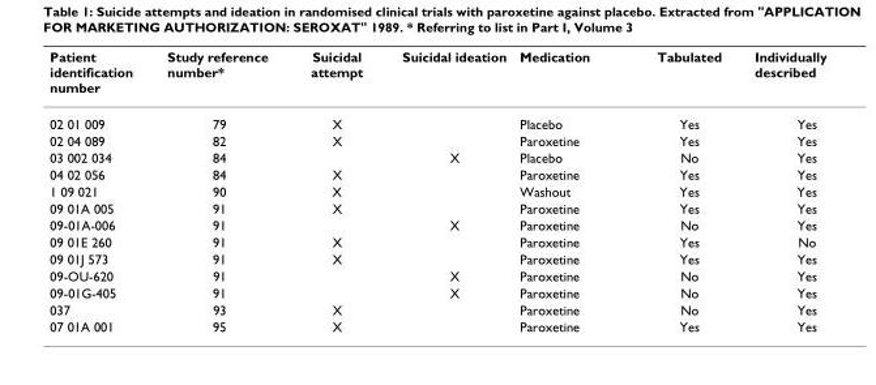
<table><thead><tr><td>Patient identification number</td><td>Study reference number*</td><td>Suicidal attempt</td><td>Suicidal ideation</td><td>Medication</td><td>Tabulated</td><td>Individually described</td></tr></thead><tbody><tr><td>02 01 009</td><td>79</td><td>X</td><td></td><td>Placebo</td><td>Yes</td><td>Yes</td></tr><tr><td>02 04 089</td><td>82</td><td>X</td><td></td><td>Paroxetine</td><td>Yes</td><td>Yes</td></tr><tr><td>03 002 034</td><td>84</td><td></td><td>X</td><td>Placebo</td><td>No</td><td>Yes</td></tr><tr><td>04 02 056</td><td>84</td><td>X</td><td></td><td>Paroxetine</td><td>Yes</td><td>Yes</td></tr><tr><td>1 09 021</td><td>90</td><td>X</td><td></td><td>Washout</td><td>Yes</td><td>Yes</td></tr><tr><td>09 01A 005</td><td>91</td><td>X</td><td></td><td>Paroxetine</td><td>Yes</td><td>Yes</td></tr><tr><td>09-01A-006</td><td>91</td><td></td><td>X</td><td>Paroxetine</td><td>No</td><td>Yes</td></tr><tr><td>09 01E 260</td><td>91</td><td>X</td><td></td><td>Paroxetine</td><td>Yes</td><td>No</td></tr><tr><td>09 01J 573</td><td>91</td><td>X</td><td></td><td>Paroxetine</td><td>Yes</td><td>Yes</td></tr><tr><td>09-OU-620</td><td>91</td><td></td><td>X</td><td>Paroxetine</td><td>No</td><td>Yes</td></tr><tr><td>09-01G-405</td><td>91</td><td></td><td>X</td><td>Paroxetine</td><td>No</td><td>Yes</td></tr><tr><td>037</td><td>93</td><td>X</td><td></td><td>Paroxetine</td><td>No</td><td>Yes</td></tr><tr><td>07 01A 001</td><td>95</td><td>X</td><td></td><td>Paroxetine</td><td>Yes</td><td>Yes</td></tr></tbody></table>